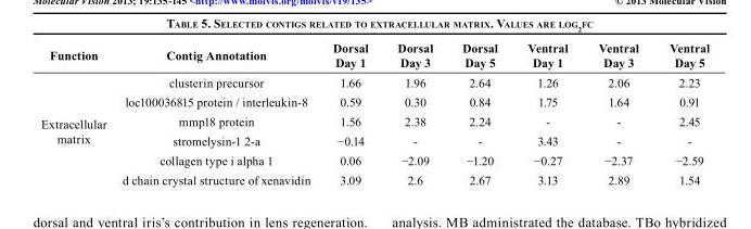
<table><thead><tr><td>Function</td><td>Contig Annotation</td><td>Dorsal Day 1</td><td>Dorsal Day 3</td><td>Dorsal Day 5</td><td>Ventral Day 1</td><td>Ventral Day 3</td><td>Ventral Day 5</td></tr></thead><tbody><tr><td rowspan="6">Extracellular matrix</td><td>clusterin precursor</td><td>1.66</td><td>1.96</td><td>2.64</td><td>1.26</td><td>2.06</td><td>2.23</td></tr><tr><td>loc100036815 protein / interleukin-8</td><td>0.59</td><td>0.30</td><td>0.84</td><td>1.75</td><td>1.64</td><td>0.91</td></tr><tr><td>mmp18 protein</td><td>1.56</td><td>2.38</td><td>2.24</td><td>-</td><td>-</td><td>2.45</td></tr><tr><td>stromelysin-1 2-a</td><td>−0.14</td><td>-</td><td>-</td><td>3.43</td><td>-</td><td>-</td></tr><tr><td>collagen type i alpha 1</td><td>0.06</td><td>−2.09</td><td>−1.20</td><td>−0.27</td><td>−2.37</td><td>−2.59</td></tr><tr><td>d chain crystal structure of xenavidin</td><td>3.09</td><td>2.6</td><td>2.67</td><td>3.13</td><td>2.89</td><td>1.54</td></tr></tbody></table>